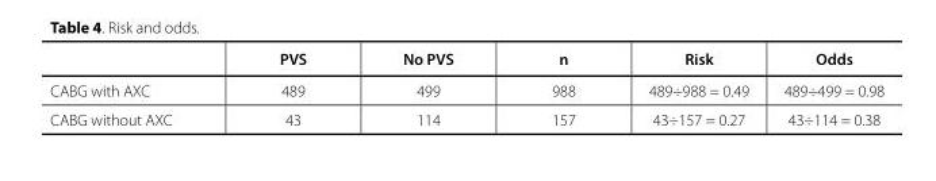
<table><thead><tr><td></td><td>PVS</td><td>No PVS</td><td>n</td><td>Risk</td><td>Odds</td></tr></thead><tbody><tr><td>CABG with AXC</td><td>489</td><td>499</td><td>988</td><td>489÷988 = 0.49</td><td>489÷499 = 0.98</td></tr><tr><td>CABG without AXC</td><td>43</td><td>114</td><td>157</td><td>43÷157 = 0.27</td><td>43÷114 = 0.38</td></tr></tbody></table>